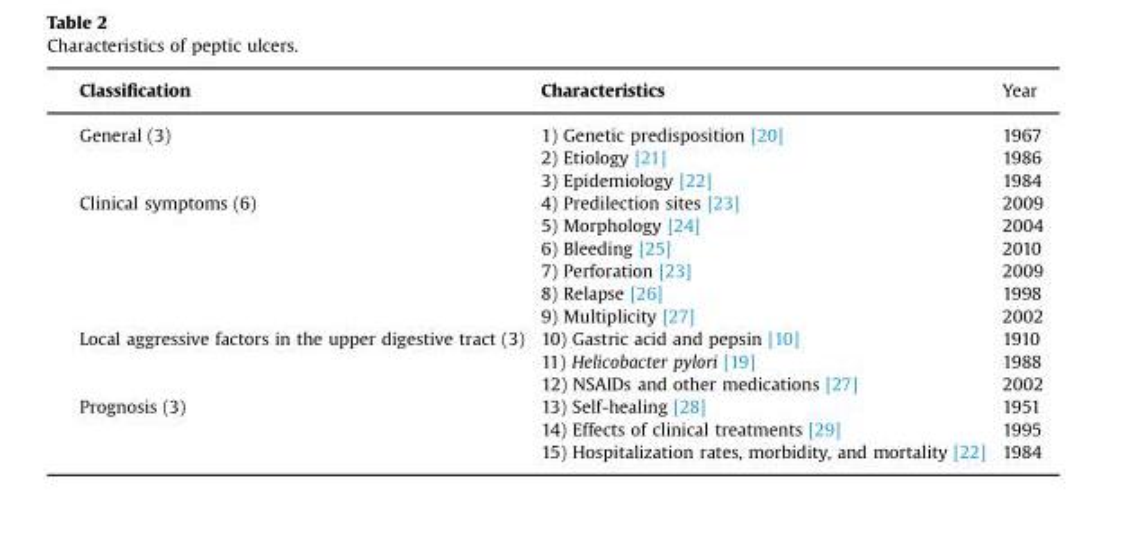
<table><tbody><tr><td>Classification</td><td>Characteristics</td><td>Year</td></tr><tr><td rowspan="3">General (3)</td><td>1) Genetic predisposition [20]</td><td>1967</td></tr><tr><td>2) Etiology [21]</td><td>1986</td></tr><tr><td>3) Epidemiology [22]</td><td>1984</td></tr><tr><td rowspan="6">Clinical symptoms (6)</td><td>4) Predilection sites [23]</td><td>2009</td></tr><tr><td>5) Morphology [24]</td><td>2004</td></tr><tr><td>6) Bleeding [25]</td><td>2010</td></tr><tr><td>7) Perforation [23]</td><td>2009</td></tr><tr><td>8) Relapse [26]</td><td>1998</td></tr><tr><td>9) Multiplicity [27]</td><td>2002</td></tr><tr><td rowspan="3">Local aggressive factors in the upper digestive tract (3)</td><td>10) Gastric acid and pepsin [10]</td><td>1910</td></tr><tr><td>11) Helicobacter pylori [19]</td><td>1988</td></tr><tr><td>12) NSAIDs and other medications [27]</td><td>2002</td></tr><tr><td rowspan="3">Prognosis (3)</td><td>13) Self-healing [28]</td><td>1951</td></tr><tr><td>14) Effects of clinical treatments [29]</td><td>1995</td></tr><tr><td>15) Hospitalization rates, morbidity, and mortality [22]</td><td>1984</td></tr></tbody></table>